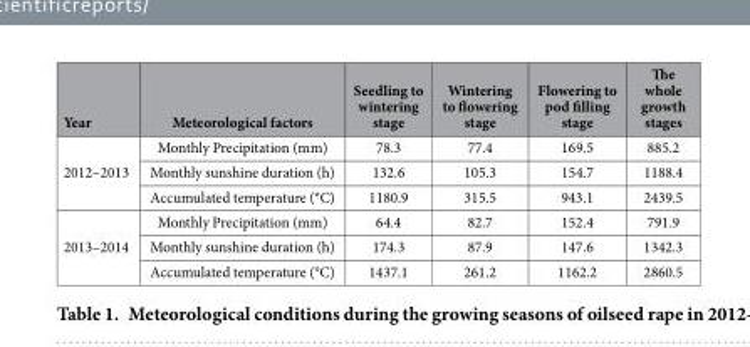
<table><thead><tr><td>Year</td><td>Meteorological factors</td><td>Seedling to wintering stage</td><td>Wintering to flowering stage</td><td>Flowering to pod filling stage</td><td>The whole growth stages</td></tr></thead><tbody><tr><td rowspan="3">2012–2013</td><td>Monthly Precipitation (mm)</td><td>78.3</td><td>77.4</td><td>169.5</td><td>885.2</td></tr><tr><td>Monthly sunshine duration (h)</td><td>132.6</td><td>105.3</td><td>154.7</td><td>1188.4</td></tr><tr><td>Accumulated temperature (°C)</td><td>1180.9</td><td>315.5</td><td>943.1</td><td>2439.5</td></tr><tr><td rowspan="3">2013–2014</td><td>Monthly Precipitation (mm)</td><td>64.4</td><td>82.7</td><td>152.4</td><td>791.9</td></tr><tr><td>Monthly sunshine duration (h)</td><td>174.3</td><td>87.9</td><td>147.6</td><td>1342.3</td></tr><tr><td>Accumulated temperature (°C)</td><td>1437.1</td><td>261.2</td><td>1162.2</td><td>2860.5</td></tr></tbody></table>